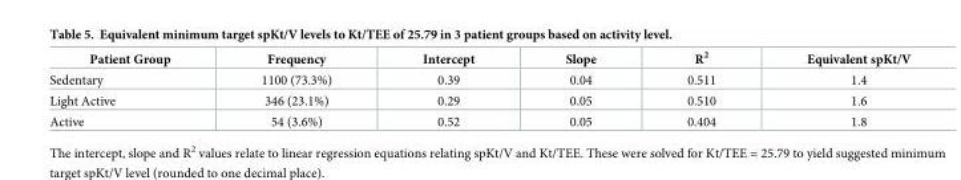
<table><thead><tr><td>Patient Group</td><td>Frequency</td><td>Intercept</td><td>Slope</td><td>R<sup>2</sup></td><td>Equivalent spKt/V</td></tr></thead><tbody><tr><td>Sedentary</td><td>1100 (73.3%)</td><td>0.39</td><td>0.04</td><td>0.511</td><td>1.4</td></tr><tr><td>Light Active</td><td>346 (23.1%)</td><td>0.29</td><td>0.05</td><td>0.510</td><td>1.6</td></tr><tr><td>Active</td><td>54 (3.6%)</td><td>0.52</td><td>0.05</td><td>0.404</td><td>1.8</td></tr></tbody></table>